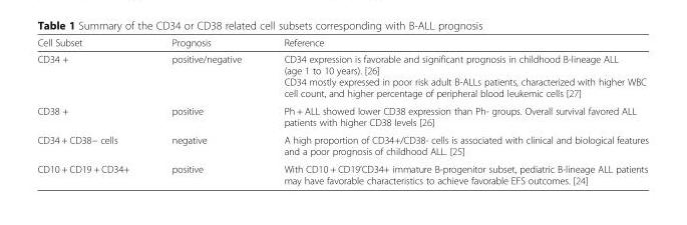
<table><thead><tr><td>Cell Subset</td><td>Prognosis</td><td>Reference</td></tr></thead><tbody><tr><td>CD34 +</td><td>positive/negative</td><td>CD34 expression is favorable and significant prognosis in childhood B-lineage ALL (age 1 to 10 years). [26] CD34 mostly expressed in poor risk adult B-ALLs patients, characterized with higher WBC cell count, and higher percentage of peripheral blood leukemic cells [27]</td></tr><tr><td>CD38 +</td><td>positive</td><td>Ph + ALL showed lower CD38 expression than Ph- groups. Overall survival favored ALL patients with higher CD38 levels [26]</td></tr><tr><td>CD34 + CD38− cells</td><td>negative</td><td>A high proportion of CD34+/CD38- cells is associated with clinical and biological features and a poor prognosis of childhood ALL. [25]</td></tr><tr><td>CD10 + CD19 + CD34+</td><td>positive</td><td>With CD10 + CD19’CD34+ immature B-progenitor subset, pediatric B-lineage ALL patients may have favorable characteristics to achieve favorable EFS outcomes. [24]</td></tr></tbody></table>